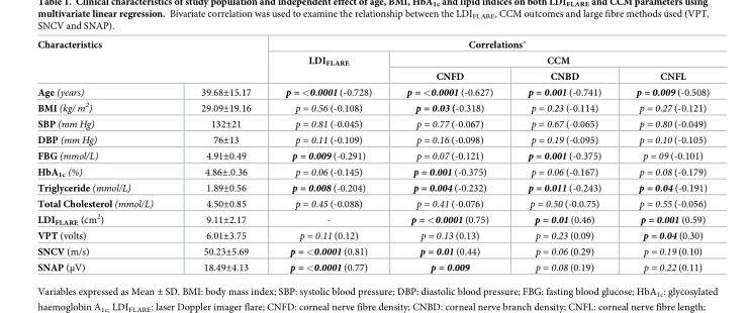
<table><thead><tr><td rowspan="3" colspan="2">Characteristics</td><td colspan="4">Correlations*</td></tr><tr><td rowspan="3">LDI<sub>FLARE</sub> p = &lt;0.0001 (-0.728)</td><td colspan="3">CCM</td></tr><tr><td rowspan="2">CNFD p = &lt;0.0001 (-0.627)</td><td rowspan="2">CNBD p = 0.001 (-0.741)</td><td rowspan="2">CNFL p = 0.009 (-0.508)</td></tr><tr><td>Age (years)</td><td>39.68±15.17</td></tr></thead><tbody><tr><td>BMI (kg/ m<sup>2</sup>)</td><td>29.09±19.16</td><td>p = 0.56 (-0.108)</td><td>p = 0.03 (-0.318)</td><td>p = 0.23 (-0.114)</td><td>p = 0.27 (-0.121)</td></tr><tr><td>SBP (mm Hg)</td><td>132±21</td><td>p = 0.81 (-0.045)</td><td>p = 0.77 (-0.067)</td><td>p = 0.67 (-0.065)</td><td>p = 0.80 (-0.049)</td></tr><tr><td>DBP (mm Hg)</td><td>76±13</td><td>p = 0.11 (-0.109)</td><td>p = 0.16 (-0.098)</td><td>p = 0.19 (-0.095)</td><td>p = 0.10 (-0.105)</td></tr><tr><td>FBG (mmol/L)</td><td>4.91±0.49</td><td>p = 0.009 (-0.291)</td><td>p = 0.07 (-0.121)</td><td>p = 0.001 (-0.375)</td><td>p = 09 (-0.101)</td></tr><tr><td>HbA<sub>1c</sub> (%)</td><td>4.86±.0.36</td><td>p = 0.06 (-0.145)</td><td>p = 0.001 (-0.375)</td><td>p = 0.06 (-0.167)</td><td>p = 0.08 (-0.179)</td></tr><tr><td>Triglyceride (mmol/L)</td><td>1.89±0.56</td><td>p = 0.008 (-0.204)</td><td>p = 0.004 (-0.232)</td><td>p = 0.011 (-0.243)</td><td>p = 0.04 (-0.191)</td></tr><tr><td>Total Cholesterol (mmol/L)</td><td>4.50±0.85</td><td>p = 0.45 (-0.088)</td><td>p = 0.41 (-0.076)</td><td>p = 0.50 (-0.0.75)</td><td>p = 0.55 (-0.056)</td></tr><tr><td>LDI<sub>FLARE</sub> (cm<sup>2</sup>)</td><td>9.11±2.17</td><td>-</td><td>p = &lt;0.0001 (0.75)</td><td>p = 0.01 (0.46)</td><td>p = 0.001 (0.59)</td></tr><tr><td>VPT (volts)</td><td>6.01±3.75</td><td>p = 0.11 (0.12)</td><td>p = 0.13 (0.13)</td><td>p = 0.23 (0.09)</td><td>p = 0.04 (0.30)</td></tr><tr><td>SNCV (m/s)</td><td>50.23±5.69</td><td>p = &lt;0.0001 (0.81)</td><td>p = 0.01 (0.44)</td><td>p = 0.06 (0.29)</td><td>p = 0.19 (0.10)</td></tr><tr><td>SNAP (μV)</td><td>18.49±4.13</td><td>p = &lt;0.0001 (0.77)</td><td>p = 0.009</td><td>p = 0.08 (0.19)</td><td>p = 0.22 (0.11)</td></tr></tbody></table>